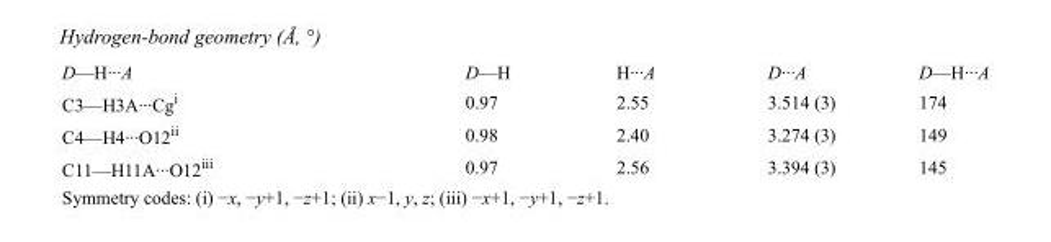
<table><tbody><tr><td>D—H···A</td><td>D—H</td><td>H···A</td><td>D···A</td><td>D—H···A</td></tr><tr><td>C3—H3A···Cg<sup>i</sup></td><td>0.97</td><td>2.55</td><td>3.514 (3)</td><td>174</td></tr><tr><td>C4—H4···O12<sup>ii</sup></td><td>0.98</td><td>2.40</td><td>3.274 (3)</td><td>149</td></tr><tr><td>C11—H11A···O12<sup>iii</sup></td><td>0.97</td><td>2.56</td><td>3.394 (3)</td><td>145</td></tr></tbody></table>